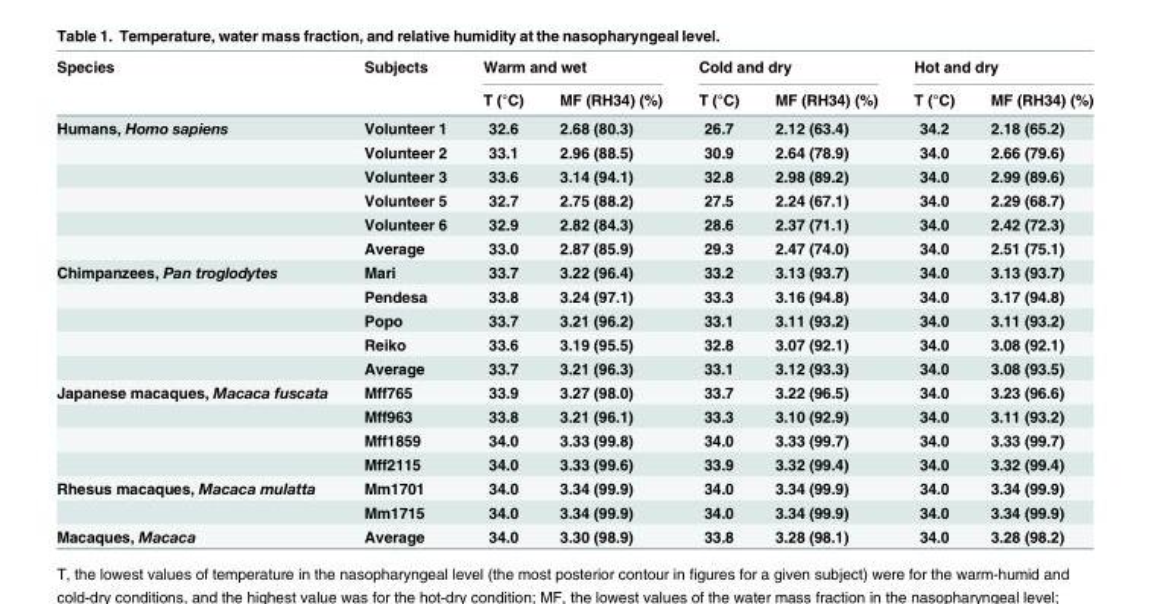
<table><thead><tr><td rowspan="2">Species</td><td rowspan="2">Subjects</td><td colspan="2">Warm and wet</td><td colspan="2">Cold and dry</td><td colspan="2">Hot and dry</td></tr><tr><td>T (°C)</td><td>MF (RH34) (%)</td><td>T (°C)</td><td>MF (RH34) (%)</td><td>T (°C)</td><td>MF (RH34) (%)</td></tr></thead><tbody><tr><td rowspan="6">Humans, Homo sapiens</td><td>Volunteer 1</td><td>32.6</td><td>2.68 (80.3)</td><td>26.7</td><td>2.12 (63.4)</td><td>34.2</td><td>2.18 (65.2)</td></tr><tr><td>Volunteer 2</td><td>33.1</td><td>2.96 (88.5)</td><td>30.9</td><td>2.64 (78.9)</td><td>34.0</td><td>2.66 (79.6)</td></tr><tr><td>Volunteer 3</td><td>33.6</td><td>3.14 (94.1)</td><td>32.8</td><td>2.98 (89.2)</td><td>34.0</td><td>2.99 (89.6)</td></tr><tr><td>Volunteer 5</td><td>32.7</td><td>2.75 (88.2)</td><td>27.5</td><td>2.24 (67.1)</td><td>34.0</td><td>2.29 (68.7)</td></tr><tr><td>Volunteer 6</td><td>32.9</td><td>2.82 (84.3)</td><td>28.6</td><td>2.37 (71.1)</td><td>34.0</td><td>2.42 (72.3)</td></tr><tr><td>Average</td><td>33.0</td><td>2.87 (85.9)</td><td>29.3</td><td>2.47 (74.0)</td><td>34.0</td><td>2.51 (75.1)</td></tr><tr><td rowspan="5">Chimpanzees, Pan troglodytes</td><td>Mari</td><td>33.7</td><td>3.22 (96.4)</td><td>33.2</td><td>3.13 (93.7)</td><td>34.0</td><td>3.13 (93.7)</td></tr><tr><td>Pendesa</td><td>33.8</td><td>3.24 (97.1)</td><td>33.3</td><td>3.16 (94.8)</td><td>34.0</td><td>3.17 (94.8)</td></tr><tr><td>Popo</td><td>33.7</td><td>3.21 (96.2)</td><td>33.1</td><td>3.11 (93.2)</td><td>34.0</td><td>3.11 (93.2)</td></tr><tr><td>Reiko</td><td>33.6</td><td>3.19 (95.5)</td><td>32.8</td><td>3.07 (92.1)</td><td>34.0</td><td>3.08 (92.1)</td></tr><tr><td>Average</td><td>33.7</td><td>3.21 (96.3)</td><td>33.1</td><td>3.12 (93.3)</td><td>34.0</td><td>3.08 (93.5)</td></tr><tr><td rowspan="4">Japanese macaques, Macaca fuscata</td><td>Mff765</td><td>33.9</td><td>3.27 (98.0)</td><td>33.7</td><td>3.22 (96.5)</td><td>34.0</td><td>3.23 (96.6)</td></tr><tr><td>Mff963</td><td>33.8</td><td>3.21 (96.1)</td><td>33.3</td><td>3.10 (92.9)</td><td>34.0</td><td>3.11 (93.2)</td></tr><tr><td>Mff1859</td><td>34.0</td><td>3.33 (99.8)</td><td>34.0</td><td>3.33 (99.7)</td><td>34.0</td><td>3.33 (99.7)</td></tr><tr><td>Mff2115</td><td>34.0</td><td>3.33 (99.6)</td><td>33.9</td><td>3.32 (99.4)</td><td>34.0</td><td>3.32 (99.4)</td></tr><tr><td rowspan="2">Rhesus macaques, Macaca mulatta</td><td>Mm1701</td><td>34.0</td><td>3.34 (99.9)</td><td>34.0</td><td>3.34 (99.9)</td><td>34.0</td><td>3.34 (99.9)</td></tr><tr><td>Mm1715</td><td>34.0</td><td>3.34 (99.9)</td><td>34.0</td><td>3.34 (99.9)</td><td>34.0</td><td>3.34 (99.9)</td></tr><tr><td>Macaques, Macaca</td><td>Average</td><td>34.0</td><td>3.30 (98.9)</td><td>33.8</td><td>3.28 (98.1)</td><td>34.0</td><td>3.28 (98.2)</td></tr></tbody></table>